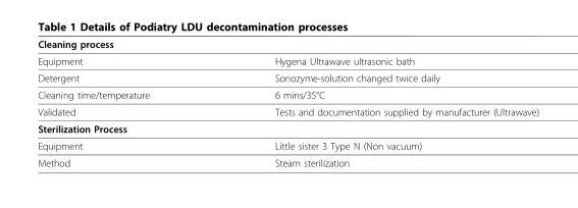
<table><thead><tr><td>Cleaning process</td><td></td></tr></thead><tbody><tr><td>Equipment</td><td>Hygena Ultrawave ultrasonic bath</td></tr><tr><td>Detergent</td><td>Sonozyme-solution changed twice daily</td></tr><tr><td>Cleaning time/temperature</td><td>6 mins/35°C</td></tr><tr><td>Validated</td><td>Tests and documentation supplied by manufacturer (Ultrawave)</td></tr><tr><td colspan="2">Sterilization Process</td></tr><tr><td>Equipment</td><td>Little sister 3 Type N (Non vacuum)</td></tr><tr><td>Method</td><td>Steam sterilization</td></tr></tbody></table>